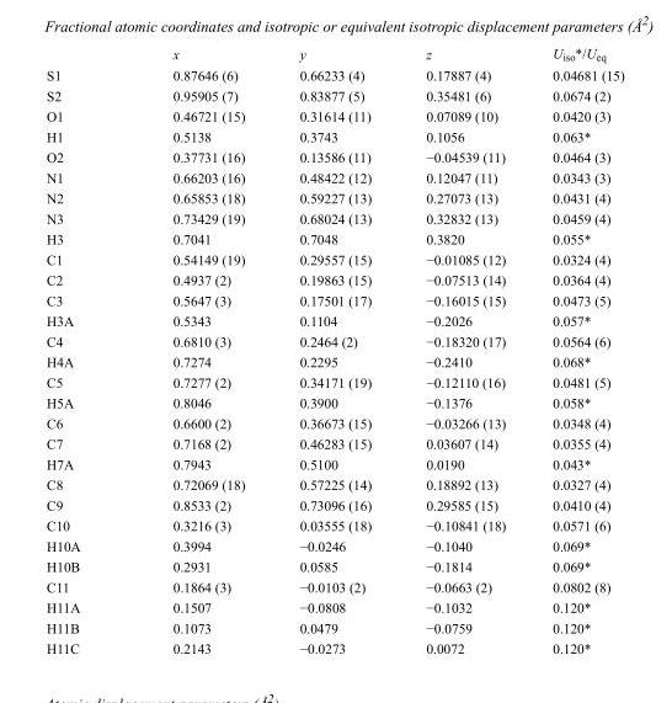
<table><thead><tr><td></td><td>x</td><td>y</td><td>z</td><td>U<sub>iso</sub>*/U<sub>eq</sub></td></tr></thead><tbody><tr><td>S1</td><td>0.87646 (6)</td><td>0.66233 (4)</td><td>0.17887 (4)</td><td>0.04681 (15)</td></tr><tr><td>S2</td><td>0.95905 (7)</td><td>0.83877 (5)</td><td>0.35481 (6)</td><td>0.0674 (2)</td></tr><tr><td>O1</td><td>0.46721 (15)</td><td>0.31614 (11)</td><td>0.07089 (10)</td><td>0.0420 (3)</td></tr><tr><td>H1</td><td>0.5138</td><td>0.3743</td><td>0.1056</td><td>0.063*</td></tr><tr><td>O2</td><td>0.37731 (16)</td><td>0.13586 (11)</td><td>−0.04539 (11)</td><td>0.0464 (3)</td></tr><tr><td>N1</td><td>0.66203 (16)</td><td>0.48422 (12)</td><td>0.12047 (11)</td><td>0.0343 (3)</td></tr><tr><td>N2</td><td>0.65853 (18)</td><td>0.59227 (13)</td><td>0.27073 (13)</td><td>0.0431 (4)</td></tr><tr><td>N3</td><td>0.73429 (19)</td><td>0.68024 (13)</td><td>0.32832 (13)</td><td>0.0459 (4)</td></tr><tr><td>H3</td><td>0.7041</td><td>0.7048</td><td>0.3820</td><td>0.055*</td></tr><tr><td>C1</td><td>0.54149 (19)</td><td>0.29557 (15)</td><td>−0.01085 (12)</td><td>0.0324 (4)</td></tr><tr><td>C2</td><td>0.4937 (2)</td><td>0.19863 (15)</td><td>−0.07513 (14)</td><td>0.0364 (4)</td></tr><tr><td>C3</td><td>0.5647 (3)</td><td>0.17501 (17)</td><td>−0.16015 (15)</td><td>0.0473 (5)</td></tr><tr><td>H3A</td><td>0.5343</td><td>0.1104</td><td>−0.2026</td><td>0.057*</td></tr><tr><td>C4</td><td>0.6810 (3)</td><td>0.2464 (2)</td><td>−0.18320 (17)</td><td>0.0564 (6)</td></tr><tr><td>H4A</td><td>0.7274</td><td>0.2295</td><td>−0.2410</td><td>0.068*</td></tr><tr><td>C5</td><td>0.7277 (2)</td><td>0.34171 (19)</td><td>−0.12110 (16)</td><td>0.0481 (5)</td></tr><tr><td>H5A</td><td>0.8046</td><td>0.3900</td><td>−0.1376</td><td>0.058*</td></tr><tr><td>C6</td><td>0.6600 (2)</td><td>0.36673 (15)</td><td>−0.03266 (13)</td><td>0.0348 (4)</td></tr><tr><td>C7</td><td>0.7168 (2)</td><td>0.46283 (15)</td><td>0.03607 (14)</td><td>0.0355 (4)</td></tr><tr><td>H7A</td><td>0.7943</td><td>0.5100</td><td>0.0190</td><td>0.043*</td></tr><tr><td>C8</td><td>0.72069 (18)</td><td>0.57225 (14)</td><td>0.18892 (13)</td><td>0.0327 (4)</td></tr><tr><td>C9</td><td>0.8533 (2)</td><td>0.73096 (16)</td><td>0.29585 (15)</td><td>0.0410 (4)</td></tr><tr><td>C10</td><td>0.3216 (3)</td><td>0.03555 (18)</td><td>−0.10841 (18)</td><td>0.0571 (6)</td></tr><tr><td>H10A</td><td>0.3994</td><td>−0.0246</td><td>−0.1040</td><td>0.069*</td></tr><tr><td>H10B</td><td>0.2931</td><td>0.0585</td><td>−0.1814</td><td>0.069*</td></tr><tr><td>C11</td><td>0.1864 (3)</td><td>−0.0103 (2)</td><td>−0.0663 (2)</td><td>0.0802 (8)</td></tr><tr><td>H11A</td><td>0.1507</td><td>−0.0808</td><td>−0.1032</td><td>0.120*</td></tr><tr><td>H11B</td><td>0.1073</td><td>0.0479</td><td>−0.0759</td><td>0.120*</td></tr><tr><td>H11C</td><td>0.2143</td><td>−0.0273</td><td>0.0072</td><td>0.120*</td></tr></tbody></table>